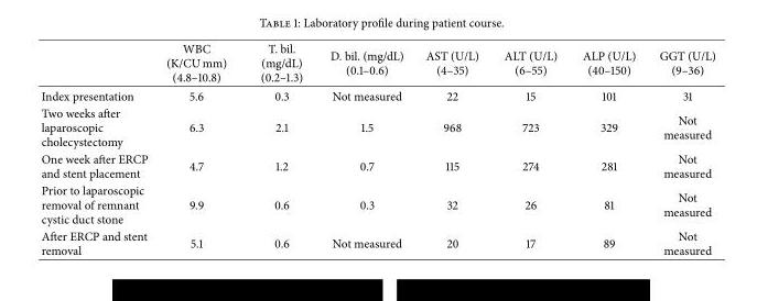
<table><thead><tr><td></td><td>WBC (K/CU mm) (4.8–10.8)</td><td>T. bil. (mg/dL) (0.2–1.3)</td><td>D. bil. (mg/dL) (0.1–0.6)</td><td>AST (U/L) (4–35)</td><td>ALT (U/L) (6–55)</td><td>ALP (U/L) (40–150)</td><td>GGT (U/L) (9–36)</td></tr></thead><tbody><tr><td>Index presentation</td><td>5.6</td><td>0.3</td><td>Not measured</td><td>22</td><td>15</td><td>101</td><td>31</td></tr><tr><td>Two weeks after laparoscopic cholecystectomy</td><td>6.3</td><td>2.1</td><td>1.5</td><td>968</td><td>723</td><td>329</td><td>Not measured</td></tr><tr><td>One week after ERCP and stent placement</td><td>4.7</td><td>1.2</td><td>0.7</td><td>115</td><td>274</td><td>281</td><td>Not measured</td></tr><tr><td>Prior to laparoscopic removal of remnant cystic duct stone</td><td>9.9</td><td>0.6</td><td>0.3</td><td>32</td><td>26</td><td>81</td><td>Not measured</td></tr><tr><td>After ERCP and stent removal</td><td>5.1</td><td>0.6</td><td>Not measured</td><td>20</td><td>17</td><td>89</td><td>Not measured</td></tr></tbody></table>